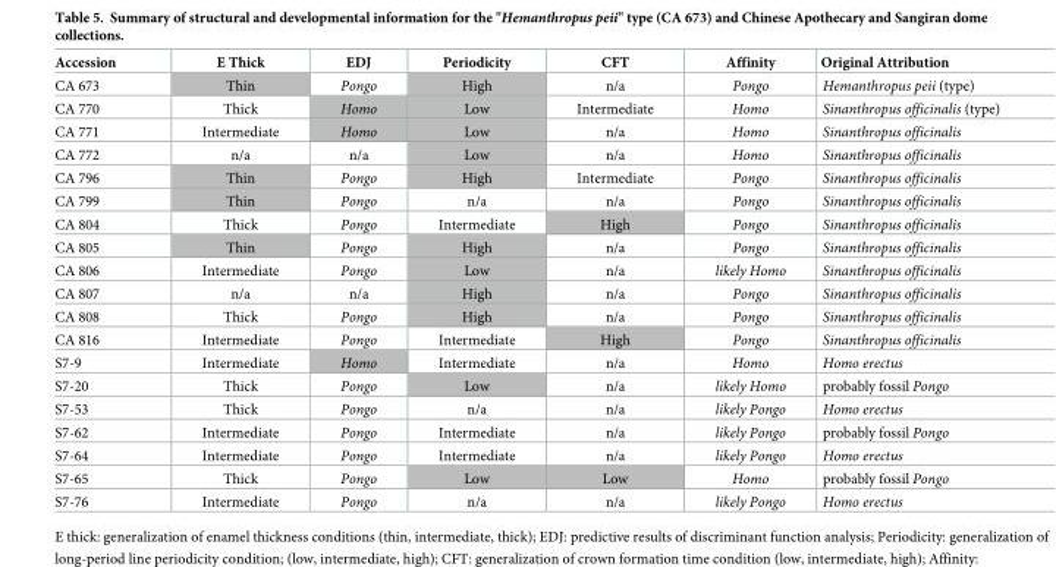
<table><thead><tr><td>Accession</td><td>E Thick</td><td>EDJ</td><td>Periodicity</td><td>CFT</td><td>Affinity</td><td>Original Attribution</td></tr></thead><tbody><tr><td>CA 673</td><td>Thin</td><td>Pongo</td><td>High</td><td>n/a</td><td>Pongo</td><td>Hemanthropus peii (type)</td></tr><tr><td>CA 770</td><td>Thick</td><td>Homo</td><td>Low</td><td>Intermediate</td><td>Homo</td><td>Sinanthropus officinalis (type)</td></tr><tr><td>CA 771</td><td>Intermediate</td><td>Homo</td><td>Low</td><td>n/a</td><td>Homo</td><td>Sinanthropus officinalis</td></tr><tr><td>CA 772</td><td>n/a</td><td>n/a</td><td>Low</td><td>n/a</td><td>Homo</td><td>Sinanthropus officinalis</td></tr><tr><td>CA 796</td><td>Thin</td><td>Pongo</td><td>High</td><td>Intermediate</td><td>Pongo</td><td>Sinanthropus officinalis</td></tr><tr><td>CA 799</td><td>Thin</td><td>Pongo</td><td>n/a</td><td>n/a</td><td>Pongo</td><td>Sinanthropus officinalis</td></tr><tr><td>CA 804</td><td>Thick</td><td>Pongo</td><td>Intermediate</td><td>High</td><td>Pongo</td><td>Sinanthropus officinalis</td></tr><tr><td>CA 805</td><td>Thin</td><td>Pongo</td><td>High</td><td>n/a</td><td>Pongo</td><td>Sinanthropus officinalis</td></tr><tr><td>CA 806</td><td>Intermediate</td><td>Pongo</td><td>Low</td><td>n/a</td><td>likely Homo</td><td>Sinanthropus officinalis</td></tr><tr><td>CA 807</td><td>n/a</td><td>n/a</td><td>High</td><td>n/a</td><td>Pongo</td><td>Sinanthropus officinalis</td></tr><tr><td>CA 808</td><td>Thick</td><td>Pongo</td><td>High</td><td>n/a</td><td>Pongo</td><td>Sinanthropus officinalis</td></tr><tr><td>CA 816</td><td>Intermediate</td><td>Pongo</td><td>Intermediate</td><td>High</td><td>Pongo</td><td>Sinanthropus officinalis</td></tr><tr><td>S7-9</td><td>Intermediate</td><td>Homo</td><td>Intermediate</td><td>n/a</td><td>Homo</td><td>Homo erectus</td></tr><tr><td>S7-20</td><td>Thick</td><td>Pongo</td><td>Low</td><td>n/a</td><td>likely Homo</td><td>probably fossil Pongo</td></tr><tr><td>S7-53</td><td>Thick</td><td>Pongo</td><td>n/a</td><td>n/a</td><td>likely Pongo</td><td>Homo erectus</td></tr><tr><td>S7-62</td><td>Intermediate</td><td>Pongo</td><td>Intermediate</td><td>n/a</td><td>likely Pongo</td><td>probably fossil Pongo</td></tr><tr><td>S7-64</td><td>Intermediate</td><td>Pongo</td><td>Intermediate</td><td>n/a</td><td>likely Pongo</td><td>Homo erectus</td></tr><tr><td>S7-65</td><td>Thick</td><td>Pongo</td><td>Low</td><td>Low</td><td>Homo</td><td>probably fossil Pongo</td></tr><tr><td>S7-76</td><td>Intermediate</td><td>Pongo</td><td>n/a</td><td>n/a</td><td>likely Pongo</td><td>Homo erectus</td></tr></tbody></table>